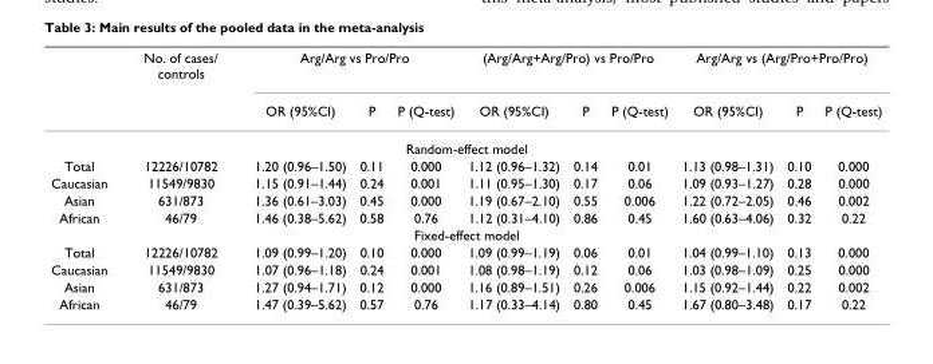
<table><thead><tr><td rowspan="2"></td><td rowspan="2">No. of cases/ controls</td><td colspan="3">Arg/Arg vs Pro/Pro</td><td colspan="3">(Arg/Arg+Arg/Pro) vs Pro/Pro</td><td colspan="3">Arg/Arg vs (Arg/Pro+Pro/Pro)</td></tr><tr><td>OR (95%CI)</td><td>P</td><td>P (Q-test)</td><td>OR (95%CI)</td><td>P</td><td>P (Q-test)</td><td>OR (95%CI)</td><td>P</td><td>P (Q-test)</td></tr></thead><tbody><tr><td colspan="11">Random-effect model</td></tr><tr><td>Total</td><td>12226/10782</td><td>1.20 (0.96–1.50)</td><td>0.11</td><td>0.000</td><td>1.12 (0.96–1.32)</td><td>0.14</td><td>0.01</td><td>1.13 (0.98–1.31)</td><td>0.10</td><td>0.000</td></tr><tr><td>Caucasian</td><td>11549/9830</td><td>1.15 (0.91–1.44)</td><td>0.24</td><td>0.001</td><td>1.11 (0.95–1.30)</td><td>0.17</td><td>0.06</td><td>1.09 (0.93–1.27)</td><td>0.28</td><td>0.000</td></tr><tr><td>Asian</td><td>631/873</td><td>1.36 (0.61–3.03)</td><td>0.45</td><td>0.000</td><td>1.19 (0.67–2.10)</td><td>0.55</td><td>0.006</td><td>1.22 (0.72–2.05)</td><td>0.46</td><td>0.002</td></tr><tr><td>African</td><td>46/79</td><td>1.46 (0.38–5.62)</td><td>0.58</td><td>0.76</td><td>1.12 (0.31–4.10)</td><td>0.86</td><td>0.45</td><td>1.60 (0.63–4.06)</td><td>0.32</td><td>0.22</td></tr><tr><td colspan="11">Fixed-effect model</td></tr><tr><td>Total</td><td>12226/10782</td><td>1.09 (0.99–1.20)</td><td>0.10</td><td>0.000</td><td>1.09 (0.99–1.19)</td><td>0.06</td><td>0.01</td><td>1.04 (0.99–1.10)</td><td>0.13</td><td>0.000</td></tr><tr><td>Caucasian</td><td>11549/9830</td><td>1.07 (0.96–1.18)</td><td>0.24</td><td>0.001</td><td>1.08 (0.98–1.19)</td><td>0.12</td><td>0.06</td><td>1.03 (0.98–1.09)</td><td>0.25</td><td>0.000</td></tr><tr><td>Asian</td><td>631/873</td><td>1.27 (0.94–1.71)</td><td>0.12</td><td>0.000</td><td>1.16 (0.89–1.51)</td><td>0.26</td><td>0.006</td><td>1.15 (0.92–1.44)</td><td>0.22</td><td>0.002</td></tr><tr><td>African</td><td>46/79</td><td>1.47 (0.39–5.62)</td><td>0.57</td><td>0.76</td><td>1.17 (0.33–4.14)</td><td>0.80</td><td>0.45</td><td>1.67 (0.80–3.48)</td><td>0.17</td><td>0.22</td></tr></tbody></table>